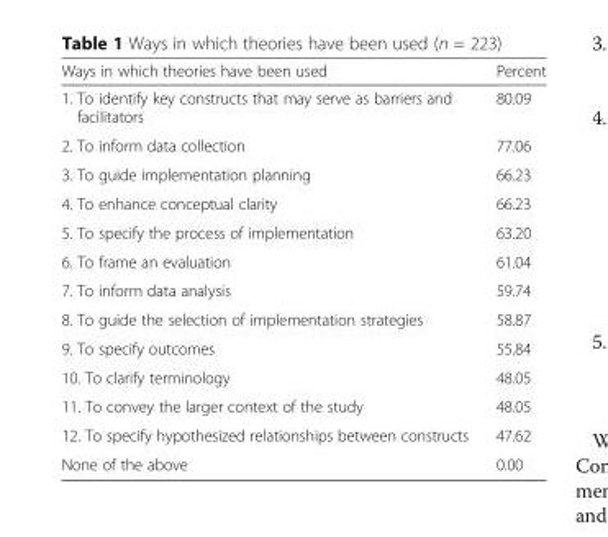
<table><thead><tr><td>Ways in which theories have been used</td><td>Percent</td></tr></thead><tbody><tr><td>1. To identify key constructs that may serve as barriers and facilitators</td><td>80.09</td></tr><tr><td>2. To inform data collection</td><td>77.06</td></tr><tr><td>3. To guide implementation planning</td><td>66.23</td></tr><tr><td>4. To enhance conceptual clarity</td><td>66.23</td></tr><tr><td>5. To specify the process of implementation</td><td>63.20</td></tr><tr><td>6. To frame an evaluation</td><td>61.04</td></tr><tr><td>7. To inform data analysis</td><td>59.74</td></tr><tr><td>8. To guide the selection of implementation strategies</td><td>58.87</td></tr><tr><td>9. To specify outcomes</td><td>55.84</td></tr><tr><td>10. To clarify terminology</td><td>48.05</td></tr><tr><td>11. To convey the larger context of the study</td><td>48.05</td></tr><tr><td>12. To specify hypothesized relationships between constructs</td><td>47.62</td></tr><tr><td>None of the above</td><td>0.00</td></tr></tbody></table>